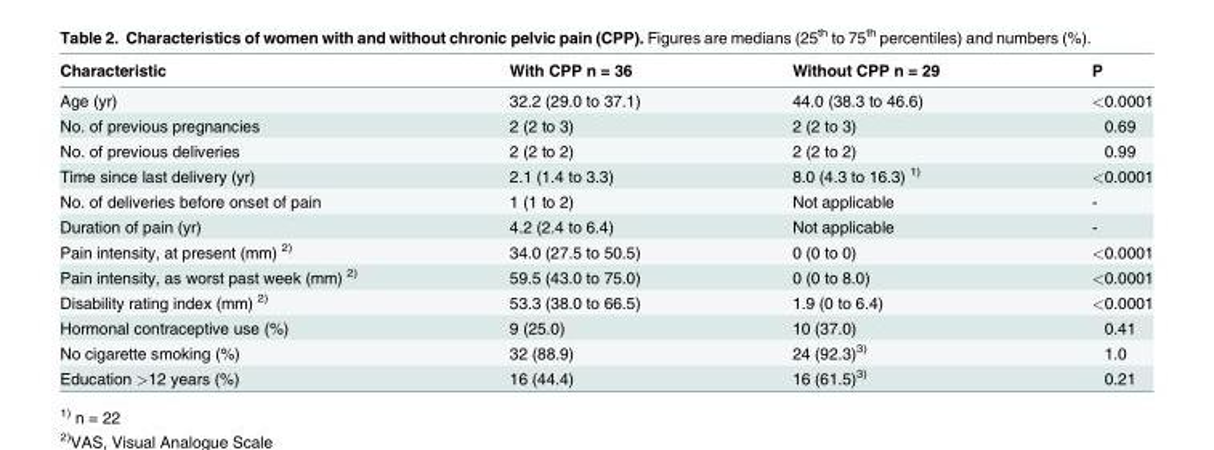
<table><thead><tr><td>Characteristic</td><td>With CPP n = 36</td><td>Without CPP n = 29</td><td>P</td></tr></thead><tbody><tr><td>Age (yr)</td><td>32.2 (29.0 to 37.1)</td><td>44.0 (38.3 to 46.6)</td><td>&lt;0.0001</td></tr><tr><td>No. of previous pregnancies</td><td>2 (2 to 3)</td><td>2 (2 to 3)</td><td>0.69</td></tr><tr><td>No. of previous deliveries</td><td>2 (2 to 2)</td><td>2 (2 to 2)</td><td>0.99</td></tr><tr><td>Time since last delivery (yr)</td><td>2.1 (1.4 to 3.3)</td><td>8.0 (4.3 to 16.3) <sup>1)</sup></td><td>&lt;0.0001</td></tr><tr><td>No. of deliveries before onset of pain</td><td>1 (1 to 2)</td><td>Not applicable</td><td>-</td></tr><tr><td>Duration of pain (yr)</td><td>4.2 (2.4 to 6.4)</td><td>Not applicable</td><td>-</td></tr><tr><td>Pain intensity, at present (mm) <sup>2)</sup></td><td>34.0 (27.5 to 50.5)</td><td>0 (0 to 0)</td><td>&lt;0.0001</td></tr><tr><td>Pain intensity, as worst past week (mm) <sup>2)</sup></td><td>59.5 (43.0 to 75.0)</td><td>0 (0 to 8.0)</td><td>&lt;0.0001</td></tr><tr><td>Disability rating index (mm) <sup>2)</sup></td><td>53.3 (38.0 to 66.5)</td><td>1.9 (0 to 6.4)</td><td>&lt;0.0001</td></tr><tr><td>Hormonal contraceptive use (%)</td><td>9 (25.0)</td><td>10 (37.0)</td><td>0.41</td></tr><tr><td>No cigarette smoking (%)</td><td>32 (88.9)</td><td>24 (92.3)<sup>3)</sup></td><td>1.0</td></tr><tr><td>Education &gt;12 years (%)</td><td>16 (44.4)</td><td>16 (61.5)<sup>3)</sup></td><td>0.21</td></tr></tbody></table>